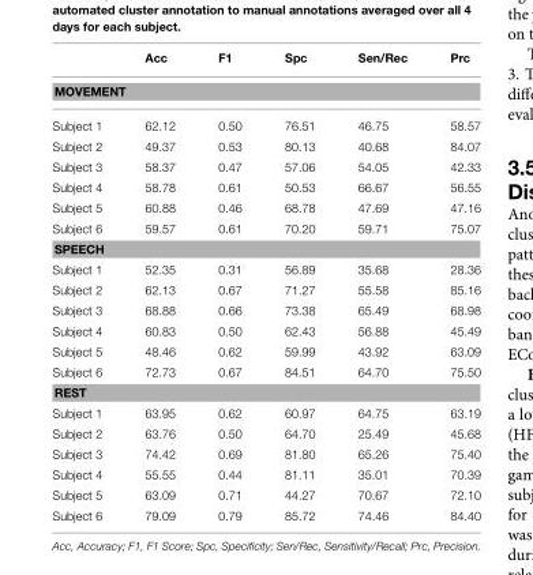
<table><thead><tr><td></td><td>Acc</td><td>F1</td><td>Spc</td><td>Sen/Rec</td><td>Prc</td></tr></thead><tbody><tr><td colspan="6">MOVEMENT</td></tr><tr><td>Subject 1</td><td>62.12</td><td>0.50</td><td>76.51</td><td>46.75</td><td>58.57</td></tr><tr><td>Subject 2</td><td>49.37</td><td>0.53</td><td>80.13</td><td>40.68</td><td>84.07</td></tr><tr><td>Subject 3</td><td>58.37</td><td>0.47</td><td>57.06</td><td>54.05</td><td>42.33</td></tr><tr><td>Subject 4</td><td>58.78</td><td>0.61</td><td>50.53</td><td>66.67</td><td>56.55</td></tr><tr><td>Subject 5</td><td>60.88</td><td>0.46</td><td>68.78</td><td>47.69</td><td>47.16</td></tr><tr><td>Subject 6</td><td>59.57</td><td>0.61</td><td>70.20</td><td>59.71</td><td>75.07</td></tr><tr><td colspan="6">SPEECH</td></tr><tr><td>Subject 1</td><td>52.35</td><td>0.31</td><td>56.89</td><td>35.68</td><td>28.36</td></tr><tr><td>Subject 2</td><td>62.13</td><td>0.67</td><td>71.27</td><td>55.58</td><td>85.16</td></tr><tr><td>Subject 3</td><td>68.88</td><td>0.66</td><td>73.38</td><td>65.49</td><td>68.98</td></tr><tr><td>Subject 4</td><td>60.83</td><td>0.50</td><td>62.43</td><td>56.88</td><td>45.49</td></tr><tr><td>Subject 5</td><td>48.46</td><td>0.62</td><td>59.99</td><td>43.92</td><td>63.09</td></tr><tr><td>Subject 6</td><td>72.73</td><td>0.67</td><td>84.51</td><td>64.70</td><td>75.50</td></tr><tr><td colspan="6">REST</td></tr><tr><td>Subject 1</td><td>63.95</td><td>0.62</td><td>60.97</td><td>64.75</td><td>63.19</td></tr><tr><td>Subject 2</td><td>63.76</td><td>0.50</td><td>64.70</td><td>25.49</td><td>45.68</td></tr><tr><td>Subject 3</td><td>74.42</td><td>0.69</td><td>81.80</td><td>65.26</td><td>75.40</td></tr><tr><td>Subject 4</td><td>55.55</td><td>0.44</td><td>81.11</td><td>35.01</td><td>70.39</td></tr><tr><td>Subject 5</td><td>63.09</td><td>0.71</td><td>44.27</td><td>70.67</td><td>72.10</td></tr><tr><td>Subject 6</td><td>79.09</td><td>0.79</td><td>85.72</td><td>74.46</td><td>84.40</td></tr></tbody></table>